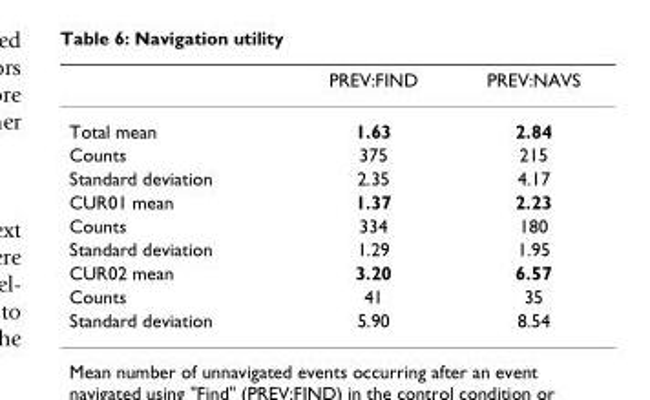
<table><thead><tr><td></td><td>PREV:FIND</td><td>PREV:NAVS</td></tr></thead><tbody><tr><td>Total mean</td><td>1.63</td><td>2.84</td></tr><tr><td>Counts</td><td>375</td><td>215</td></tr><tr><td>Standard deviation</td><td>2.35</td><td>4.17</td></tr><tr><td>CUR01 mean</td><td>1.37</td><td>2.23</td></tr><tr><td>Counts</td><td>334</td><td>180</td></tr><tr><td>Standard deviation</td><td>1.29</td><td>1.95</td></tr><tr><td>CUR02 mean</td><td>3.20</td><td>6.57</td></tr><tr><td>Counts</td><td>41</td><td>35</td></tr><tr><td>Standard deviation</td><td>5.90</td><td>8.54</td></tr></tbody></table>